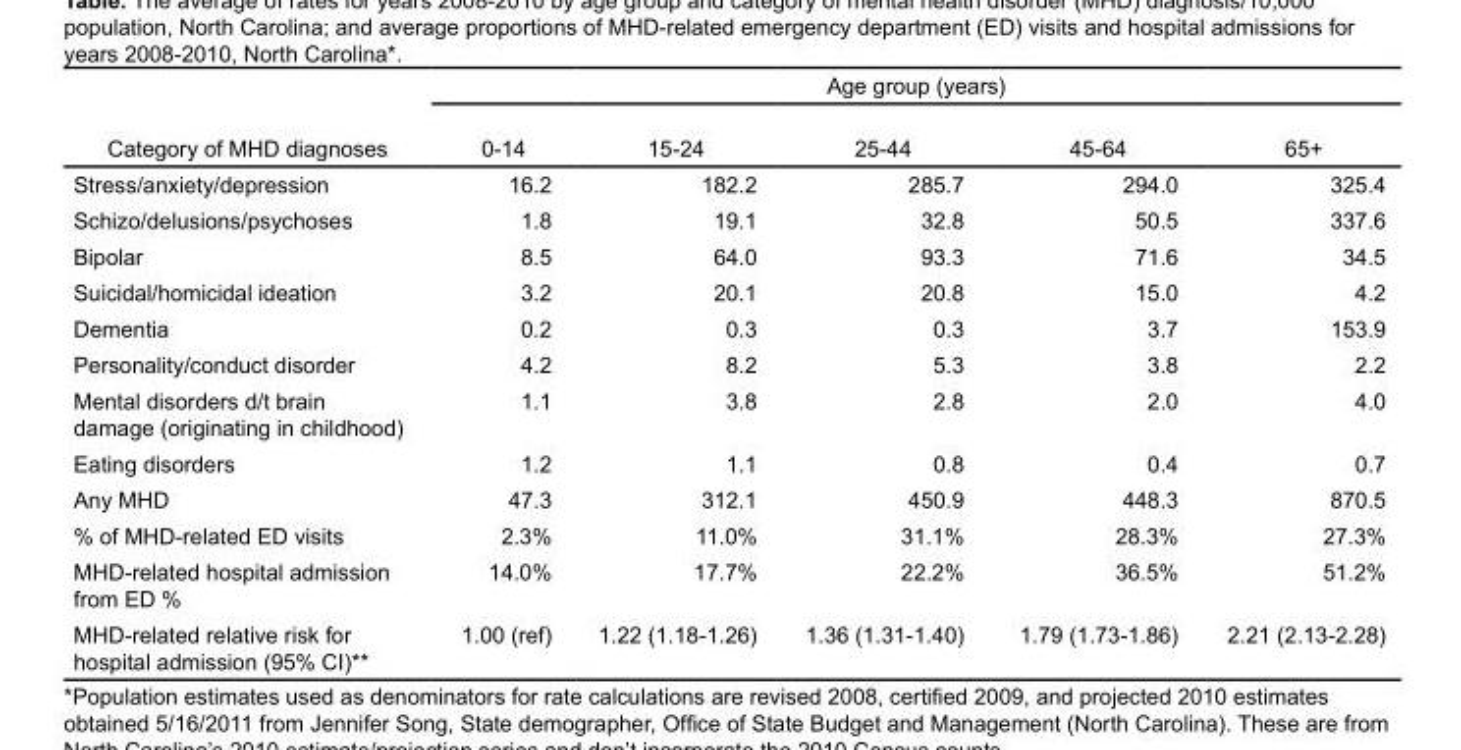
<table><thead><tr><td rowspan="2">Category of MHD diagnoses</td><td colspan="5">Age group (years)</td></tr><tr><td>0-14</td><td>15-24</td><td>25-44</td><td>45-64</td><td>65+</td></tr></thead><tbody><tr><td>Stress/anxiety/depression</td><td>16.2</td><td>182.2</td><td>285.7</td><td>294.0</td><td>325.4</td></tr><tr><td>Schizo/delusions/psychoses</td><td>1.8</td><td>19.1</td><td>32.8</td><td>50.5</td><td>337.6</td></tr><tr><td>Bipolar</td><td>8.5</td><td>64.0</td><td>93.3</td><td>71.6</td><td>34.5</td></tr><tr><td>Suicidal/homicidal ideation</td><td>3.2</td><td>20.1</td><td>20.8</td><td>15.0</td><td>4.2</td></tr><tr><td>Dementia</td><td>0.2</td><td>0.3</td><td>0.3</td><td>3.7</td><td>153.9</td></tr><tr><td>Personality/conduct disorder</td><td>4.2</td><td>8.2</td><td>5.3</td><td>3.8</td><td>2.2</td></tr><tr><td>Mental disorders d/t brain damage (originating in childhood)</td><td>1.1</td><td>3.8</td><td>2.8</td><td>2.0</td><td>4.0</td></tr><tr><td>Eating disorders</td><td>1.2</td><td>1.1</td><td>0.8</td><td>0.4</td><td>0.7</td></tr><tr><td>Any MHD</td><td>47.3</td><td>312.1</td><td>450.9</td><td>448.3</td><td>870.5</td></tr><tr><td>% of MHD-related ED visits</td><td>2.3%</td><td>11.0%</td><td>31.1%</td><td>28.3%</td><td>27.3%</td></tr><tr><td>MHD-related hospital admission from ED %</td><td>14.0%</td><td>17.7%</td><td>22.2%</td><td>36.5%</td><td>51.2%</td></tr><tr><td>MHD-related relative risk for hospital admission (95% CI)**</td><td>1.00 (ref)</td><td>1.22 (1.18-1.26)</td><td>1.36 (1.31-1.40)</td><td>1.79 (1.73-1.86)</td><td>2.21 (2.13-2.28)</td></tr></tbody></table>